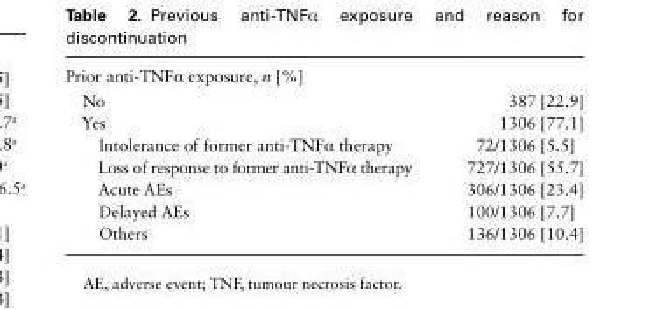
<table><tbody><tr><td colspan="2">Prior anti-TNFα exposure, n [%]</td></tr><tr><td>No</td><td>387 [22.9]</td></tr><tr><td>Yes</td><td>1306 [77.1]</td></tr><tr><td>Intolerance of former anti-TNFα therapy</td><td>72/1306 [5.5]</td></tr><tr><td>Loss of response to former anti-TNFα therapy</td><td>727/1306 [55.7]</td></tr><tr><td>Acute AEs</td><td>306/1306 [23.4]</td></tr><tr><td>Delayed AEs</td><td>100/1306 [7.7]</td></tr><tr><td>Others</td><td>136/1306 [10.4]</td></tr></tbody></table>